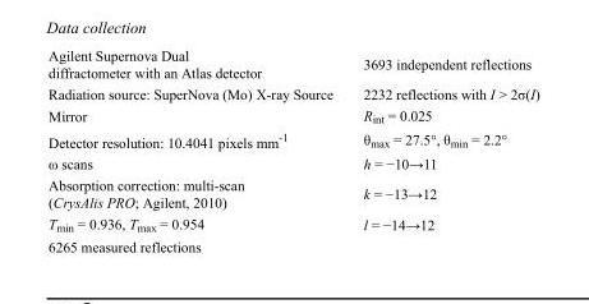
<table><tbody><tr><td>Agilent Supernova Dual diffractometer with an Atlas detector</td><td>3693 independent reflections</td></tr><tr><td>Radiation source: SuperNova (Mo) X-ray Source</td><td>2232 reflections with I &gt; 2σ(I)</td></tr><tr><td>Mirror</td><td>R<sub>int</sub> = 0.025</td></tr><tr><td>Detector resolution: 10.4041 pixels mm<sup>-1</sup></td><td>θ<sub>max</sub> = 27.5°, θ<sub>min</sub> = 2.2°</td></tr><tr><td>ω scans</td><td>h = −10→11</td></tr><tr><td>Absorption correction: multi-scan (CrysAlis PRO; Agilent, 2010)</td><td>k = −13→12</td></tr><tr><td>T<sub>min</sub> = 0.936, T<sub>max</sub> = 0.954</td><td>l = −14→12</td></tr><tr><td>6265 measured reflections</td><td></td></tr></tbody></table>